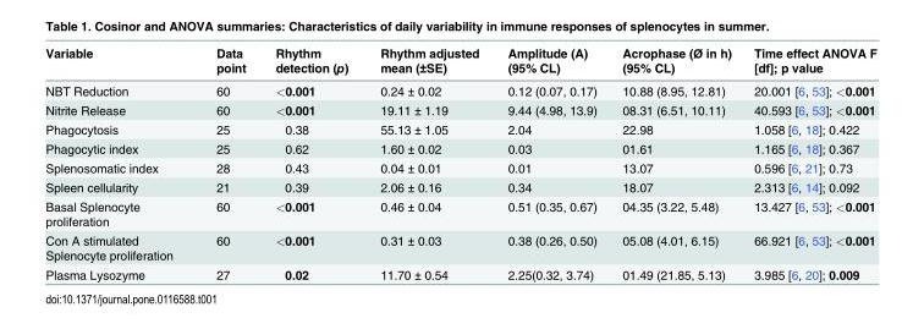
<table><thead><tr><td>Variable</td><td>Data point</td><td>Rhythm detection (p)</td><td>Rhythm adjusted mean (±SE)</td><td>Amplitude (A) (95% CL)</td><td>Acrophase (Ø in h) (95% CL)</td><td>Time effect ANOVA F [df]; p value</td></tr></thead><tbody><tr><td>NBT Reduction</td><td>60</td><td>&lt;0.001</td><td>0.24 ± 0.02</td><td>0.12 (0.07, 0.17)</td><td>10.88 (8.95, 12.81)</td><td>20.001 [6, 53]; &lt;0.001</td></tr><tr><td>Nitrite Release</td><td>60</td><td>&lt;0.001</td><td>19.11 ± 1.19</td><td>9.44 (4.98, 13.9)</td><td>08.31 (6.51, 10.11)</td><td>40.593 [6, 53]; &lt;0.001</td></tr><tr><td>Phagocytosis</td><td>25</td><td>0.38</td><td>55.13 ± 1.05</td><td>2.04</td><td>22.98</td><td>1.058 [6, 18]; 0.422</td></tr><tr><td>Phagocytic index</td><td>25</td><td>0.62</td><td>1.60 ± 0.02</td><td>0.03</td><td>01.61</td><td>1.165 [6, 18]; 0.367</td></tr><tr><td>Splenosomatic index</td><td>28</td><td>0.43</td><td>0.04 ± 0.01</td><td>0.01</td><td>13.07</td><td>0.596 [6, 21]; 0.73</td></tr><tr><td>Spleen cellularity</td><td>21</td><td>0.39</td><td>2.06 ± 0.16</td><td>0.34</td><td>18.07</td><td>2.313 [6, 14]; 0.092</td></tr><tr><td>Basal Splenocyte proliferation</td><td>60</td><td>&lt;0.001</td><td>0.46 ± 0.04</td><td>0.51 (0.35, 0.67)</td><td>04.35 (3.22, 5.48)</td><td>13.427 [6, 53]; &lt;0.001</td></tr><tr><td>Con A stimulated Splenocyte proliferation</td><td>60</td><td>&lt;0.001</td><td>0.31 ± 0.03</td><td>0.38 (0.26, 0.50)</td><td>05.08 (4.01, 6.15)</td><td>66.921 [6, 53]; &lt;0.001</td></tr><tr><td>Plasma Lysozyme</td><td>27</td><td>0.02</td><td>11.70 ± 0.54</td><td>2.25(0.32, 3.74)</td><td>01.49 (21.85, 5.13)</td><td>3.985 [6, 20]; 0.009</td></tr></tbody></table>